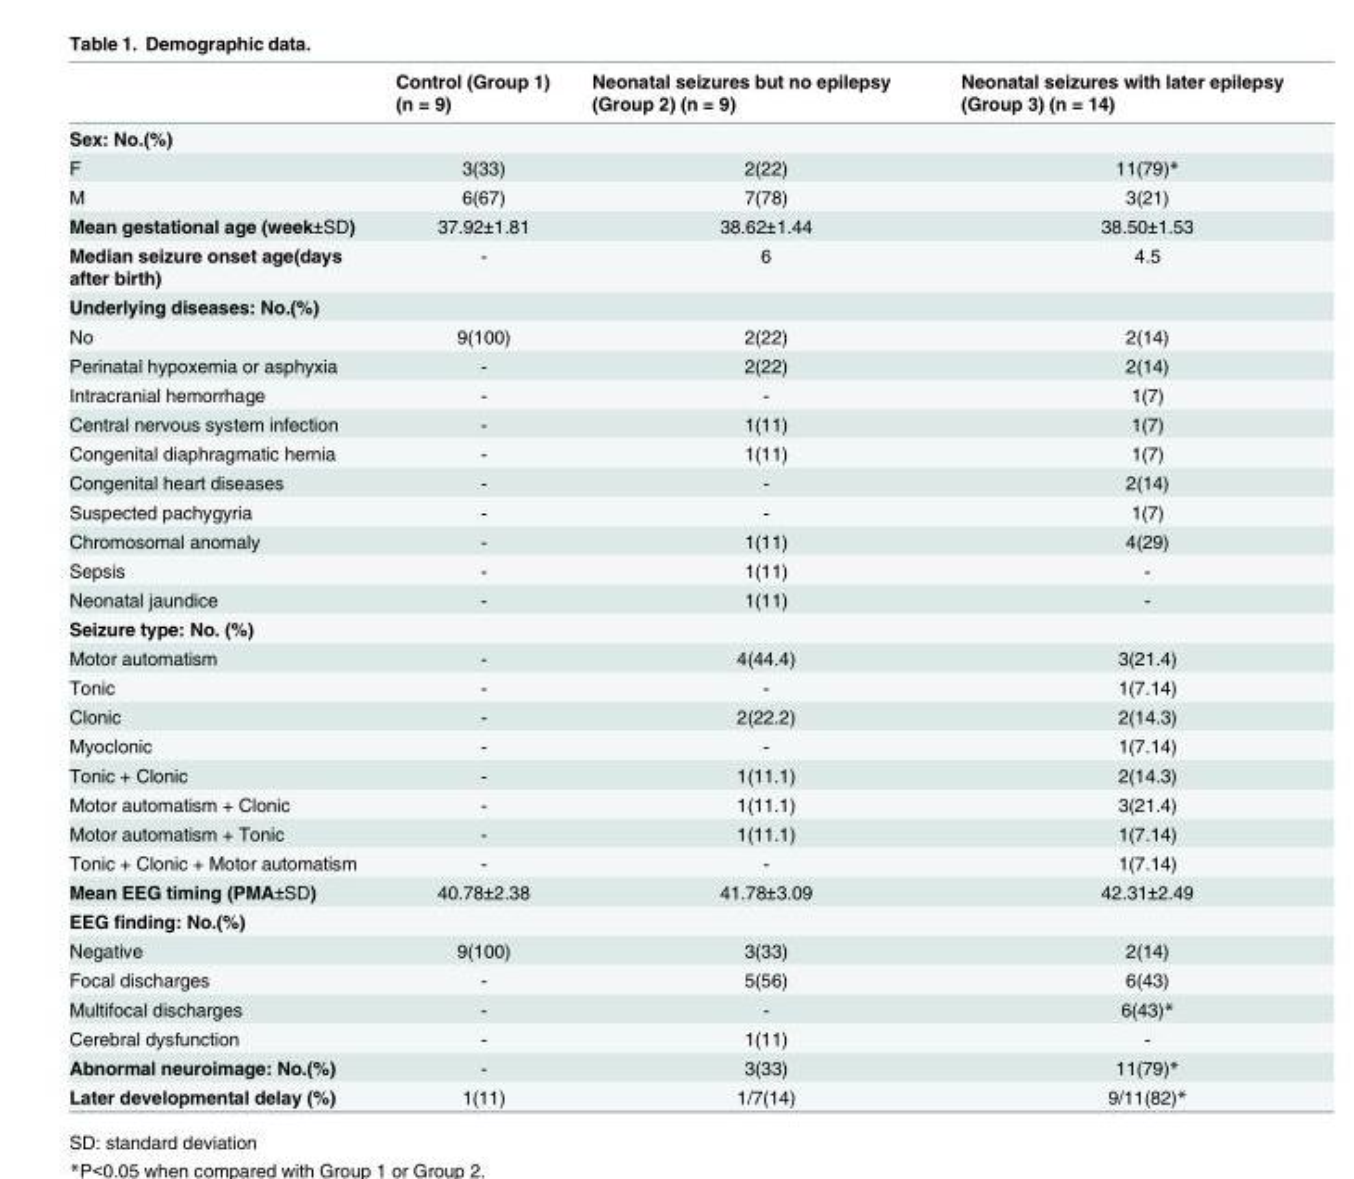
<table><thead><tr><td></td><td>Control (Group 1) (n = 9)</td><td>Neonatal seizures but no epilepsy (Group 2) (n = 9)</td><td>Neonatal seizures with later epilepsy (Group 3) (n = 14)</td></tr></thead><tbody><tr><td colspan="4">Sex: No.(%)</td></tr><tr><td>F</td><td>3(33)</td><td>2(22)</td><td>11(79)*</td></tr><tr><td>M</td><td>6(67)</td><td>7(78)</td><td>3(21)</td></tr><tr><td>Mean gestational age (week±SD)</td><td>37.92±1.81</td><td>38.62±1.44</td><td>38.50±1.53</td></tr><tr><td>Median seizure onset age(days after birth)</td><td>-</td><td>6</td><td>4.5</td></tr><tr><td colspan="4">Underlying diseases: No.(%)</td></tr><tr><td>No</td><td>9(100)</td><td>2(22)</td><td>2(14)</td></tr><tr><td>Perinatal hypoxemia or asphyxia</td><td>-</td><td>2(22)</td><td>2(14)</td></tr><tr><td>Intracranial hemorrhage</td><td>-</td><td>-</td><td>1(7)</td></tr><tr><td>Central nervous system infection</td><td>-</td><td>1(11)</td><td>1(7)</td></tr><tr><td>Congenital diaphragmatic hernia</td><td>-</td><td>1(11)</td><td>1(7)</td></tr><tr><td>Congenital heart diseases</td><td>-</td><td>-</td><td>2(14)</td></tr><tr><td>Suspected pachygyria</td><td>-</td><td>-</td><td>1(7)</td></tr><tr><td>Chromosomal anomaly</td><td>-</td><td>1(11)</td><td>4(29)</td></tr><tr><td>Sepsis</td><td>-</td><td>1(11)</td><td>-</td></tr><tr><td>Neonatal jaundice</td><td>-</td><td>1(11)</td><td>-</td></tr><tr><td colspan="4">Seizure type: No. (%)</td></tr><tr><td>Motor automatism</td><td>-</td><td>4(44.4)</td><td>3(21.4)</td></tr><tr><td>Tonic</td><td>-</td><td>-</td><td>1(7.14)</td></tr><tr><td>Clonic</td><td>-</td><td>2(22.2)</td><td>2(14.3)</td></tr><tr><td>Myoclonic</td><td>-</td><td>-</td><td>1(7.14)</td></tr><tr><td>Tonic + Clonic</td><td>-</td><td>1(11.1)</td><td>2(14.3)</td></tr><tr><td>Motor automatism + Clonic</td><td>-</td><td>1(11.1)</td><td>3(21.4)</td></tr><tr><td>Motor automatism + Tonic</td><td>-</td><td>1(11.1)</td><td>1(7.14)</td></tr><tr><td>Tonic + Clonic + Motor automatism</td><td>-</td><td>-</td><td>1(7.14)</td></tr><tr><td>Mean EEG timing (PMA±SD)</td><td>40.78±2.38</td><td>41.78±3.09</td><td>42.31±2.49</td></tr><tr><td colspan="4">EEG finding: No.(%)</td></tr><tr><td>Negative</td><td>9(100)</td><td>3(33)</td><td>2(14)</td></tr><tr><td>Focal discharges</td><td>-</td><td>5(56)</td><td>6(43)</td></tr><tr><td>Multifocal discharges</td><td>-</td><td>-</td><td>6(43)*</td></tr><tr><td>Cerebral dysfunction</td><td>-</td><td>1(11)</td><td>-</td></tr><tr><td>Abnormal neuroimage: No.(%)</td><td>-</td><td>3(33)</td><td>11(79)*</td></tr><tr><td>Later developmental delay (%)</td><td>1(11)</td><td>1/7(14)</td><td>9/11(82)*</td></tr></tbody></table>